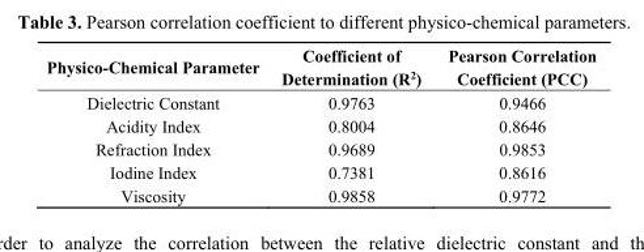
<table><thead><tr><td>Physico-Chemical Parameter</td><td>Coefficient of Determination (R<sup>2</sup>)</td><td>Pearson Correlation Coefficient (PCC)</td></tr></thead><tbody><tr><td>Dielectric Constant</td><td>0.9763</td><td>0.9466</td></tr><tr><td>Acidity Index</td><td>0.8004</td><td>0.8646</td></tr><tr><td>Refraction Index</td><td>0.9689</td><td>0.9853</td></tr><tr><td>Iodine Index</td><td>0.7381</td><td>0.8616</td></tr><tr><td>Viscosity</td><td>0.9858</td><td>0.9772</td></tr></tbody></table>